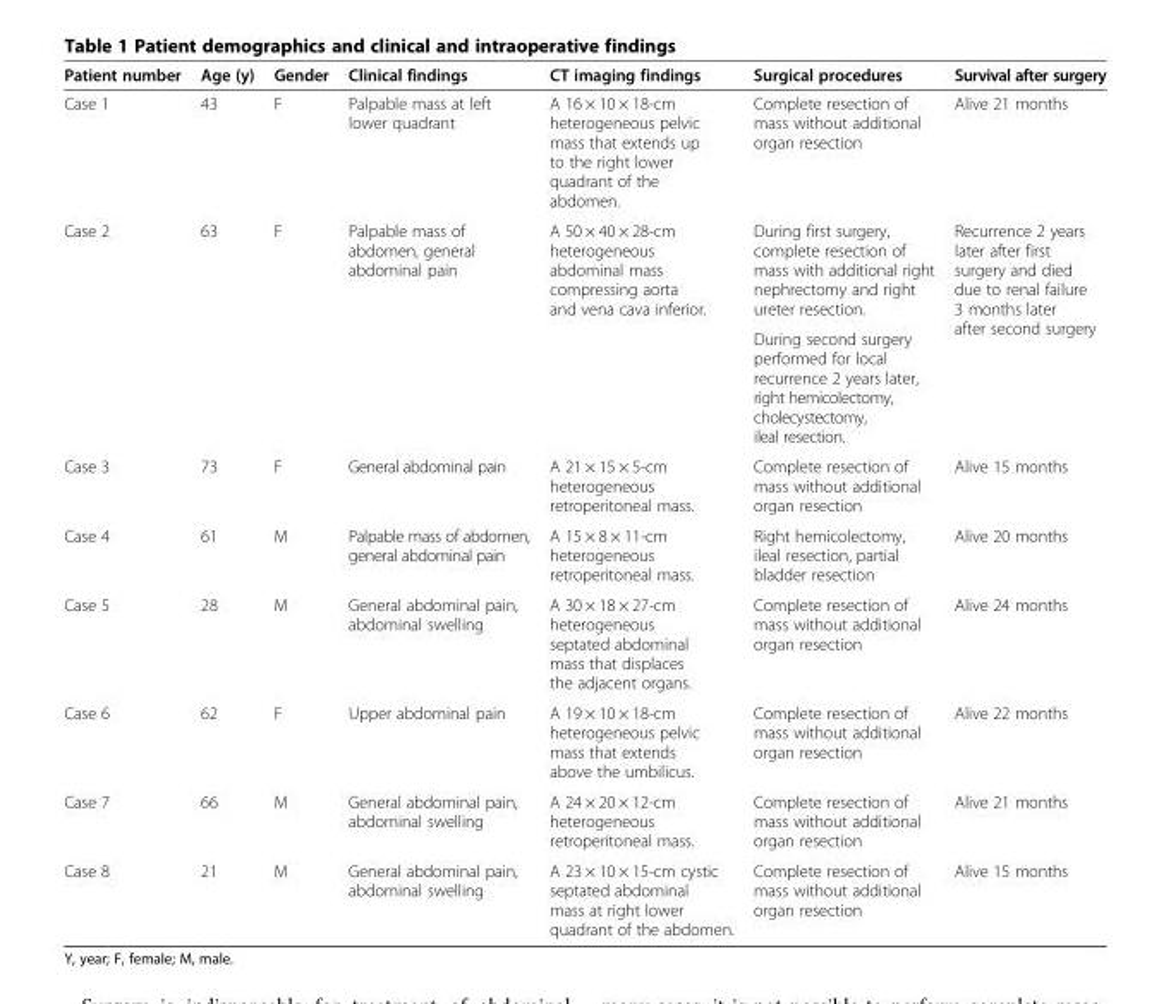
<table><thead><tr><td>Patient number</td><td>Age (y)</td><td>Gender</td><td>Clinical findings</td><td>CT imaging findings</td><td>Surgical procedures</td><td>Survival after surgery</td></tr></thead><tbody><tr><td>Case 1</td><td>43</td><td>F</td><td>Palpable mass at left lower quadrant</td><td>A 16 × 10 × 18-cm heterogeneous pelvic mass that extends up to the right lower quadrant of the abdomen.</td><td>Complete resection of mass without additional organ resection</td><td>Alive 21 months</td></tr><tr><td rowspan="2">Case 2</td><td rowspan="2">63</td><td rowspan="2">F</td><td rowspan="2">Palpable mass of abdomen, general abdominal pain</td><td rowspan="2">A 50 × 40 × 28-cm heterogeneous abdominal mass compressing aorta and vena cava inferior.</td><td>During first surgery, complete resection of mass with additional right nephrectomy and right ureter resection.</td><td rowspan="2">Recurrence 2 years later after first surgery and died due to renal failure 3 months later after second surgery</td></tr><tr><td>During second surgery performed for local recurrence 2 years later, right hemicolectomy, cholecystectomy, ileal resection.</td></tr><tr><td>Case 3</td><td>73</td><td>F</td><td>General abdominal pain</td><td>A 21 × 15 × 5-cm heterogeneous retroperitoneal mass.</td><td>Complete resection of mass without additional organ resection</td><td>Alive 15 months</td></tr><tr><td>Case 4</td><td>61</td><td>M</td><td>Palpable mass of abdomen, general abdominal pain</td><td>A 15 × 8 × 11-cm heterogeneous retroperitoneal mass.</td><td>Right hemicolectomy, ileal resection, partial bladder resection</td><td>Alive 20 months</td></tr><tr><td>Case 5</td><td>28</td><td>M</td><td>General abdominal pain, abdominal swelling</td><td>A 30 × 18 × 27-cm heterogeneous septated abdominal mass that displaces the adjacent organs.</td><td>Complete resection of mass without additional organ resection</td><td>Alive 24 months</td></tr><tr><td>Case 6</td><td>62</td><td>F</td><td>Upper abdominal pain</td><td>A 19 × 10 × 18-cm heterogeneous pelvic mass that extends above the umbilicus.</td><td>Complete resection of mass without additional organ resection</td><td>Alive 22 months</td></tr><tr><td>Case 7</td><td>66</td><td>M</td><td>General abdominal pain, abdominal swelling</td><td>A 24 × 20 × 12-cm heterogeneous retroperitoneal mass.</td><td>Complete resection of mass without additional organ resection</td><td>Alive 21 months</td></tr><tr><td>Case 8</td><td>21</td><td>M</td><td>General abdominal pain, abdominal swelling</td><td>A 23 × 10 × 15-cm cystic septated abdominal mass at right lower quadrant of the abdomen.</td><td>Complete resection of mass without additional organ resection</td><td>Alive 15 months</td></tr></tbody></table>